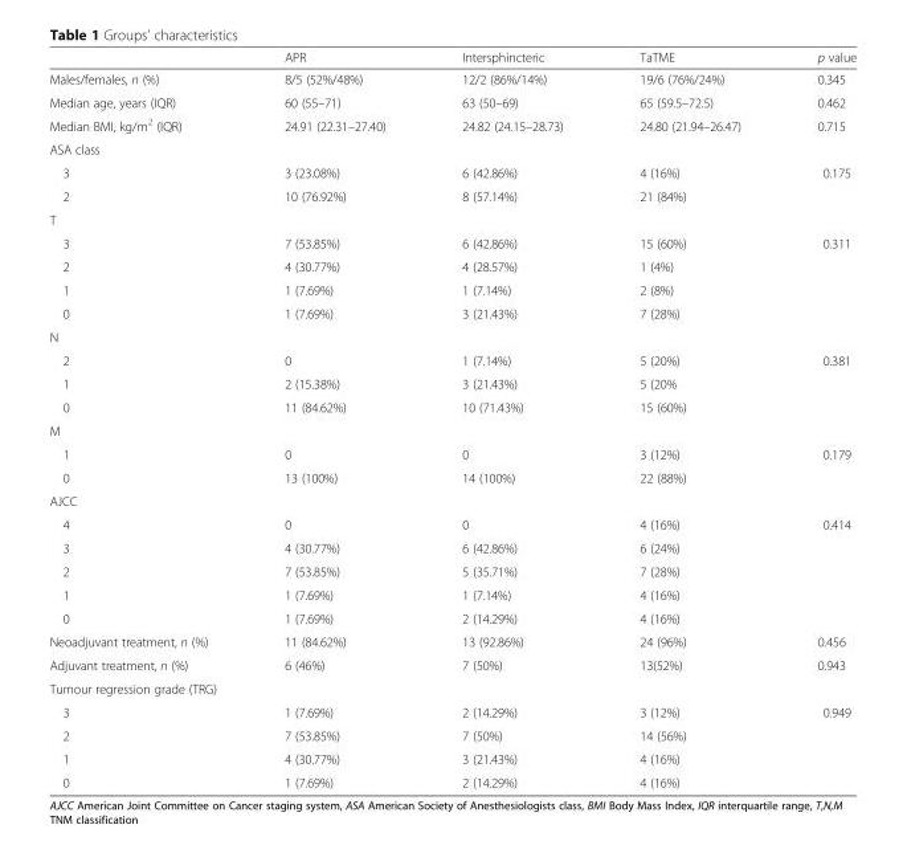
<table><thead><tr><td></td><td>APR</td><td>Intersphincteric</td><td>TaTME</td><td>p value</td></tr></thead><tbody><tr><td>Males/females, n (%)</td><td>8/5 (52%/48%)</td><td>12/2 (86%/14%)</td><td>19/6 (76%/24%)</td><td>0.345</td></tr><tr><td>Median age, years (IQR)</td><td>60 (55–71)</td><td>63 (50–69)</td><td>65 (59.5–72.5)</td><td>0.462</td></tr><tr><td>Median BMI, kg/m<sup>2</sup> (IQR)</td><td>24.91 (22.31–27.40)</td><td>24.82 (24.15–28.73)</td><td>24.80 (21.94–26.47)</td><td>0.715</td></tr><tr><td colspan="5">ASA class</td></tr><tr><td>3</td><td>3 (23.08%)</td><td>6 (42.86%)</td><td>4 (16%)</td><td rowspan="2">0.175</td></tr><tr><td>2</td><td>10 (76.92%)</td><td>8 (57.14%)</td><td>21 (84%)</td></tr><tr><td colspan="5">T</td></tr><tr><td>3</td><td>7 (53.85%)</td><td>6 (42.86%)</td><td>15 (60%)</td><td rowspan="4">0.311</td></tr><tr><td>2</td><td>4 (30.77%)</td><td>4 (28.57%)</td><td>1 (4%)</td></tr><tr><td>1</td><td>1 (7.69%)</td><td>1 (7.14%)</td><td>2 (8%)</td></tr><tr><td>0</td><td>1 (7.69%)</td><td>3 (21.43%)</td><td>7 (28%)</td></tr><tr><td colspan="5">N</td></tr><tr><td>2</td><td>0</td><td>1 (7.14%)</td><td>5 (20%)</td><td rowspan="3">0.381</td></tr><tr><td>1</td><td>2 (15.38%)</td><td>3 (21.43%)</td><td>5 (20%</td></tr><tr><td>0</td><td>11 (84.62%)</td><td>10 (71.43%)</td><td>15 (60%)</td></tr><tr><td colspan="5">M</td></tr><tr><td>1</td><td>0</td><td>0</td><td>3 (12%)</td><td rowspan="2">0.179</td></tr><tr><td>0</td><td>13 (100%)</td><td>14 (100%)</td><td>22 (88%)</td></tr><tr><td colspan="5">AJCC</td></tr><tr><td>4</td><td>0</td><td>0</td><td>4 (16%)</td><td rowspan="5">0.414</td></tr><tr><td>3</td><td>4 (30.77%)</td><td>6 (42.86%)</td><td>6 (24%)</td></tr><tr><td>2</td><td>7 (53.85%)</td><td>5 (35.71%)</td><td>7 (28%)</td></tr><tr><td>1</td><td>1 (7.69%)</td><td>1 (7.14%)</td><td>4 (16%)</td></tr><tr><td>0</td><td>1 (7.69%)</td><td>2 (14.29%)</td><td>4 (16%)</td></tr><tr><td>Neoadjuvant treatment, n (%)</td><td>11 (84.62%)</td><td>13 (92.86%)</td><td>24 (96%)</td><td>0.456</td></tr><tr><td>Adjuvant treatment, n (%)</td><td>6 (46%)</td><td>7 (50%)</td><td>13(52%)</td><td>0.943</td></tr><tr><td colspan="5">Tumour regression grade (TRG)</td></tr><tr><td>3</td><td>1 (7.69%)</td><td>2 (14.29%)</td><td>3 (12%)</td><td rowspan="4">0.949</td></tr><tr><td>2</td><td>7 (53.85%)</td><td>7 (50%)</td><td>14 (56%)</td></tr><tr><td>1</td><td>4 (30.77%)</td><td>3 (21.43%)</td><td>4 (16%)</td></tr><tr><td>0</td><td>1 (7.69%)</td><td>2 (14.29%)</td><td>4 (16%)</td></tr></tbody></table>